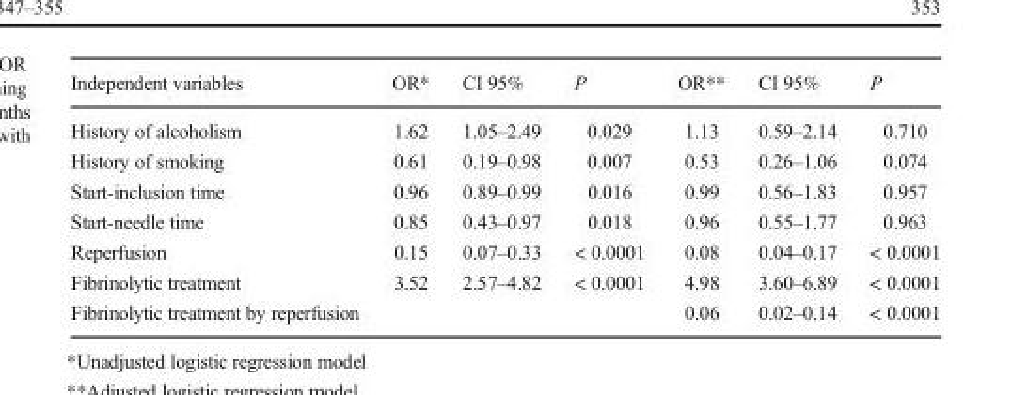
<table><thead><tr><td>Independent variables</td><td>OR*</td><td>CI 95%</td><td>P</td><td>OR**</td><td>CI 95%</td><td>P</td></tr></thead><tbody><tr><td>History of alcoholism</td><td>1.62</td><td>1.05–2.49</td><td>0.029</td><td>1.13</td><td>0.59–2.14</td><td>0.710</td></tr><tr><td>History of smoking</td><td>0.61</td><td>0.19–0.98</td><td>0.007</td><td>0.53</td><td>0.26–1.06</td><td>0.074</td></tr><tr><td>Start-inclusion time</td><td>0.96</td><td>0.89–0.99</td><td>0.016</td><td>0.99</td><td>0.56–1.83</td><td>0.957</td></tr><tr><td>Start-needle time</td><td>0.85</td><td>0.43–0.97</td><td>0.018</td><td>0.96</td><td>0.55–1.77</td><td>0.963</td></tr><tr><td>Reperfusion</td><td>0.15</td><td>0.07–0.33</td><td>&lt; 0.0001</td><td>0.08</td><td>0.04–0.17</td><td>&lt; 0.0001</td></tr><tr><td>Fibrinolytic treatment</td><td>3.52</td><td>2.57–4.82</td><td>&lt; 0.0001</td><td>4.98</td><td>3.60–6.89</td><td>&lt; 0.0001</td></tr><tr><td>Fibrinolytic treatment by reperfusion</td><td></td><td></td><td></td><td>0.06</td><td>0.02–0.14</td><td>&lt; 0.0001</td></tr></tbody></table>